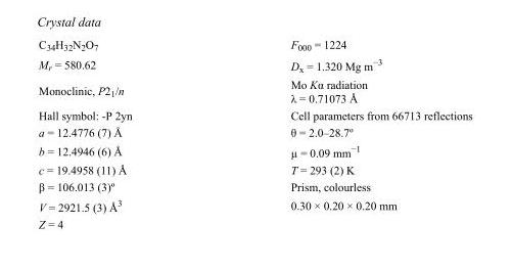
<table><tbody><tr><td>C<sub>34</sub>H<sub>32</sub>N<sub>2</sub>O<sub>7</sub></td><td>F<sub>000</sub> = 1224</td></tr><tr><td>M<sub>r</sub> = 580.62</td><td>D<sub>x</sub> = 1.320 Mg m<sup>−3</sup></td></tr><tr><td>Monoclinic, P2<sub>1</sub>/n</td><td>Mo Kα radiation λ = 0.71073 Å</td></tr><tr><td>Hall symbol: -P 2yn</td><td>Cell parameters from 66713 reflections</td></tr><tr><td>a = 12.4776 (7) Å</td><td>θ = 2.0–28.7º</td></tr><tr><td>b = 12.4946 (6) Å</td><td>µ = 0.09 mm<sup>−1</sup></td></tr><tr><td>c = 19.4958 (11) Å</td><td>T = 293 (2) K</td></tr><tr><td>β = 106.013 (3)º</td><td>Prism, colourless</td></tr><tr><td>V = 2921.5 (3) Å<sup>3</sup></td><td>0.30 × 0.20 × 0.20 mm</td></tr><tr><td>Z = 4</td><td></td></tr></tbody></table>